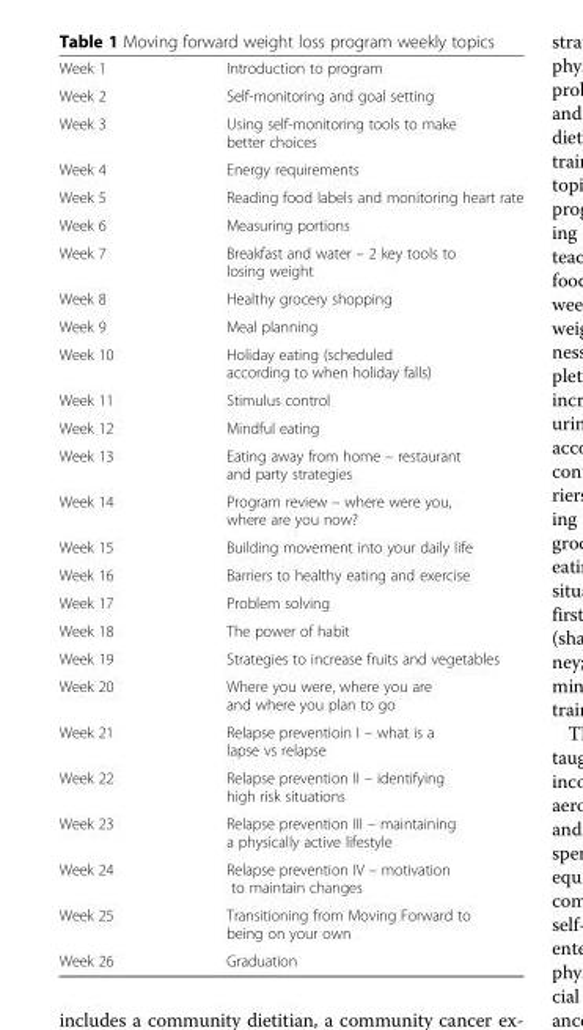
<table><tbody><tr><td>Week 1</td><td>Introduction to program</td></tr><tr><td>Week 2</td><td>Self-monitoring and goal setting</td></tr><tr><td>Week 3</td><td>Using self-monitoring tools to make better choices</td></tr><tr><td>Week 4</td><td>Energy requirements</td></tr><tr><td>Week 5</td><td>Reading food labels and monitoring heart rate</td></tr><tr><td>Week 6</td><td>Measuring portions</td></tr><tr><td>Week 7</td><td>Breakfast and water – 2 key tools to losing weight</td></tr><tr><td>Week 8</td><td>Healthy grocery shopping</td></tr><tr><td>Week 9</td><td>Meal planning</td></tr><tr><td>Week 10</td><td>Holiday eating (scheduled according to when holiday falls)</td></tr><tr><td>Week 11</td><td>Stimulus control</td></tr><tr><td>Week 12</td><td>Mindful eating</td></tr><tr><td>Week 13</td><td>Eating away from home – restaurant and party strategies</td></tr><tr><td>Week 14</td><td>Program review – where were you, where are you now?</td></tr><tr><td>Week 15</td><td>Building movement into your daily life</td></tr><tr><td>Week 16</td><td>Barriers to healthy eating and exercise</td></tr><tr><td>Week 17</td><td>Problem solving</td></tr><tr><td>Week 18</td><td>The power of habit</td></tr><tr><td>Week 19</td><td>Strategies to increase fruits and vegetables</td></tr><tr><td>Week 20</td><td>Where you were, where you are and where you plan to go</td></tr><tr><td>Week 21</td><td>Relapse preventioin I – what is a lapse vs relapse</td></tr><tr><td>Week 22</td><td>Relapse prevention II – identifying high risk situations</td></tr><tr><td>Week 23</td><td>Relapse prevention III – maintaining a physically active lifestyle</td></tr><tr><td>Week 24</td><td>Relapse prevention IV – motivation to maintain changes</td></tr><tr><td>Week 25</td><td>Transitioning from Moving Forward to being on your own</td></tr><tr><td>Week 26</td><td>Graduation</td></tr></tbody></table>